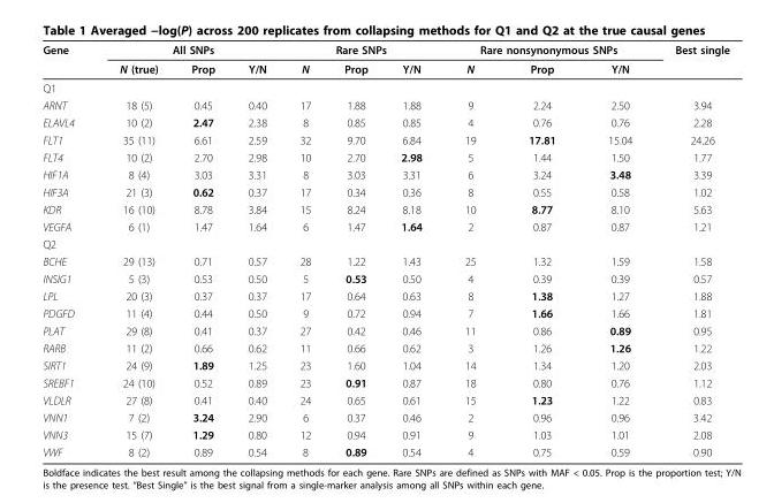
<table><thead><tr><td rowspan="2">Gene</td><td colspan="3">All SNPs</td><td colspan="3">Rare SNPs</td><td colspan="3">Rare nonsynonymous SNPs</td><td rowspan="2">Best single</td></tr><tr><td>N (true)</td><td>Prop</td><td>Y/N</td><td>N</td><td>Prop</td><td>Y/N</td><td>N</td><td>Prop</td><td>Y/N</td></tr></thead><tbody><tr><td colspan="11">Q1</td></tr><tr><td>ARNT</td><td>18 (5)</td><td>0.45</td><td>0.40</td><td>17</td><td>1.88</td><td>1.88</td><td>9</td><td>2.24</td><td>2.50</td><td>3.94</td></tr><tr><td>ELAVL4</td><td>10 (2)</td><td>2.47</td><td>2.38</td><td>8</td><td>0.85</td><td>0.85</td><td>4</td><td>0.76</td><td>0.76</td><td>2.28</td></tr><tr><td>FLT1</td><td>35 (11)</td><td>6.61</td><td>2.59</td><td>32</td><td>9.70</td><td>6.84</td><td>19</td><td>17.81</td><td>15.04</td><td>24.26</td></tr><tr><td>FLT4</td><td>10 (2)</td><td>2.70</td><td>2.98</td><td>10</td><td>2.70</td><td>2.98</td><td>5</td><td>1.44</td><td>1.50</td><td>1.77</td></tr><tr><td>HIF1A</td><td>8 (4)</td><td>3.03</td><td>3.31</td><td>8</td><td>3.03</td><td>3.31</td><td>6</td><td>3.24</td><td>3.48</td><td>3.39</td></tr><tr><td>HIF3A</td><td>21 (3)</td><td>0.62</td><td>0.37</td><td>17</td><td>0.34</td><td>0.36</td><td>8</td><td>0.55</td><td>0.58</td><td>1.02</td></tr><tr><td>KDR</td><td>16 (10)</td><td>8.78</td><td>3.84</td><td>15</td><td>8.24</td><td>8.18</td><td>10</td><td>8.77</td><td>8.10</td><td>5.63</td></tr><tr><td>VEGFA</td><td>6 (1)</td><td>1.47</td><td>1.64</td><td>6</td><td>1.47</td><td>1.64</td><td>2</td><td>0.87</td><td>0.87</td><td>1.21</td></tr><tr><td colspan="11">Q2</td></tr><tr><td>BCHE</td><td>29 (13)</td><td>0.71</td><td>0.57</td><td>28</td><td>1.22</td><td>1.43</td><td>25</td><td>1.32</td><td>1.59</td><td>1.58</td></tr><tr><td>INSIG1</td><td>5 (3)</td><td>0.53</td><td>0.50</td><td>5</td><td>0.53</td><td>0.50</td><td>4</td><td>0.39</td><td>0.39</td><td>0.57</td></tr><tr><td>LPL</td><td>20 (3)</td><td>0.37</td><td>0.37</td><td>17</td><td>0.64</td><td>0.63</td><td>8</td><td>1.38</td><td>1.27</td><td>1.88</td></tr><tr><td>PDGFD</td><td>11 (4)</td><td>0.44</td><td>0.50</td><td>9</td><td>0.72</td><td>0.94</td><td>7</td><td>1.66</td><td>1.66</td><td>1.81</td></tr><tr><td>PLAT</td><td>29 (8)</td><td>0.41</td><td>0.37</td><td>27</td><td>0.42</td><td>0.46</td><td>11</td><td>0.86</td><td>0.89</td><td>0.95</td></tr><tr><td>RARB</td><td>11 (2)</td><td>0.66</td><td>0.62</td><td>11</td><td>0.66</td><td>0.62</td><td>3</td><td>1.26</td><td>1.26</td><td>1.22</td></tr><tr><td>SIRT1</td><td>24 (9)</td><td>1.89</td><td>1.25</td><td>23</td><td>1.60</td><td>1.04</td><td>14</td><td>1.34</td><td>1.20</td><td>2.03</td></tr><tr><td>SREBF1</td><td>24 (10)</td><td>0.52</td><td>0.89</td><td>23</td><td>0.91</td><td>0.87</td><td>18</td><td>0.80</td><td>0.76</td><td>1.12</td></tr><tr><td>VLDLR</td><td>27 (8)</td><td>0.41</td><td>0.40</td><td>24</td><td>0.65</td><td>0.61</td><td>15</td><td>1.23</td><td>1.22</td><td>0.83</td></tr><tr><td>VNN1</td><td>7 (2)</td><td>3.24</td><td>2.90</td><td>6</td><td>0.37</td><td>0.46</td><td>2</td><td>0.96</td><td>0.96</td><td>3.42</td></tr><tr><td>VNN3</td><td>15 (7)</td><td>1.29</td><td>0.80</td><td>12</td><td>0.94</td><td>0.91</td><td>9</td><td>1.03</td><td>1.01</td><td>2.08</td></tr><tr><td>VWF</td><td>8 (2)</td><td>0.89</td><td>0.54</td><td>8</td><td>0.89</td><td>0.54</td><td>4</td><td>0.75</td><td>0.59</td><td>0.90</td></tr></tbody></table>